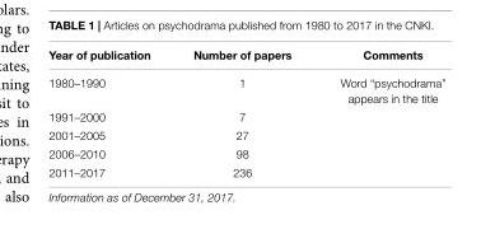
<table><thead><tr><td>Year of publication</td><td>Number of papers</td><td>Comments</td></tr></thead><tbody><tr><td>1980–1990</td><td>1</td><td>Word “psychodrama” appears in the title</td></tr><tr><td>1991–2000</td><td>7</td><td></td></tr><tr><td>2001–2005</td><td>27</td><td></td></tr><tr><td>2006–2010</td><td>98</td><td></td></tr><tr><td>2011–2017</td><td>236</td><td></td></tr></tbody></table>